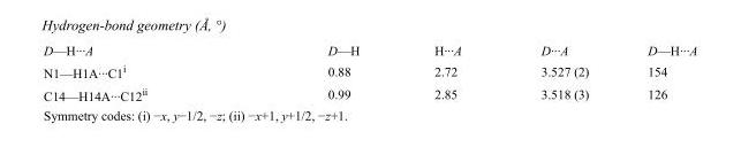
<table><tbody><tr><td>D—H···A</td><td>D—H</td><td>H···A</td><td>D···A</td><td>D—H···A</td></tr><tr><td>N1—H1A···C1<sup>i</sup></td><td>0.88</td><td>2.72</td><td>3.527 (2)</td><td>154</td></tr><tr><td>C14—H14A···C12<sup>ii</sup></td><td>0.99</td><td>2.85</td><td>3.518 (3)</td><td>126</td></tr></tbody></table>